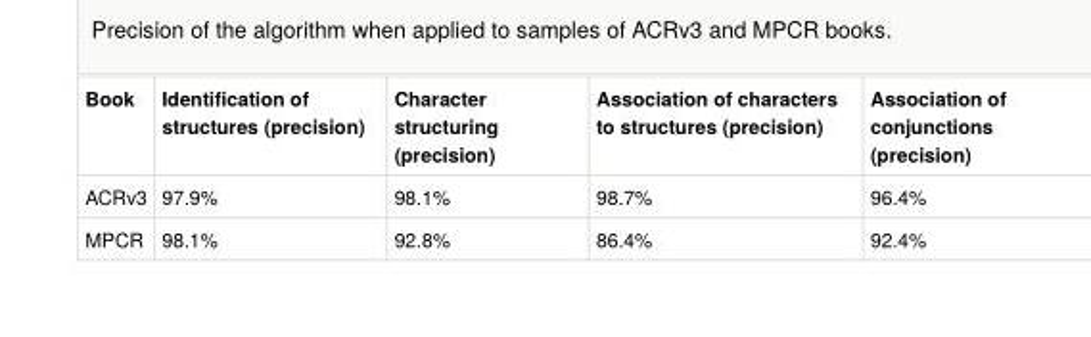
<table><tbody><tr><td>Book</td><td>Identification of structures (precision)</td><td>Character structuring (precision)</td><td>Association of characters to structures (precision)</td><td>Association of conjunctions (precision)</td></tr><tr><td>ACRv3</td><td>97.9%</td><td>98.1%</td><td>98.7%</td><td>96.4%</td></tr><tr><td>MPCR</td><td>98.1%</td><td>92.8%</td><td>86.4%</td><td>92.4%</td></tr></tbody></table>